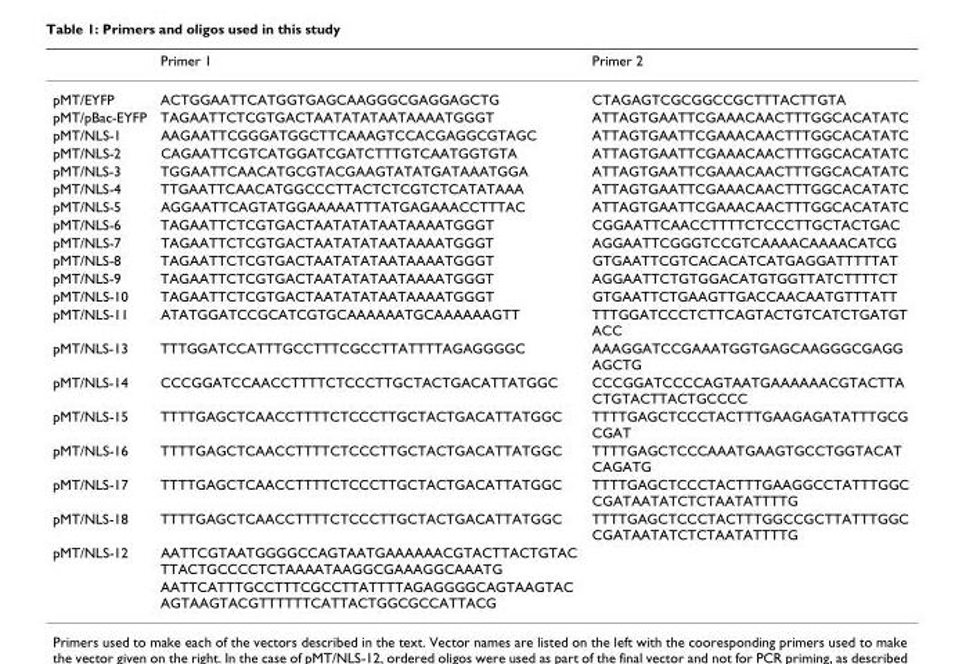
<table><thead><tr><td></td><td>Primer 1</td><td>Primer 2</td></tr></thead><tbody><tr><td>pMT/EYFP</td><td>ACTGGAATTCATGGTGAGCAAGGGCGAGGAGCTG</td><td>CTAGAGTCGCGGCCGCTTTACTTGTA</td></tr><tr><td>pMT/pBac-EYFP</td><td>TAGAATTCTCGTGACTAATATATAATAAAATGGGT</td><td>ATTAGTGAATTCGAAACAACTTTGGCACATATC</td></tr><tr><td>pMT/NLS-1</td><td>AAGAATTCGGGATGGCTTCAAAGTCCACGAGGCGTAGC</td><td>ATTAGTGAATTCGAAACAACTTTGGCACATATC</td></tr><tr><td>pMT/NLS-2</td><td>CAGAATTCGTCATGGATCGATCTTTGTCAATGGTGTA</td><td>ATTAGTGAATTCGAAACAACTTTGGCACATATC</td></tr><tr><td>pMT/NLS-3</td><td>TGGAATTCAACATGCGTACGAAGTATATGATAAATGGA</td><td>ATTAGTGAATTCGAAACAACTTTGGCACATATC</td></tr><tr><td>pMT/NLS-4</td><td>TTGAATTCAACATGGCCCTTACTCTCGTCTCATATAAA</td><td>ATTAGTGAATTCGAAACAACTTTGGCACATATC</td></tr><tr><td>pMT/NLS-5</td><td>AGGAATTCAGTATGGAAAAATTTATGAGAAACCTTTAC</td><td>ATTAGTGAATTCGAAACAACTTTGGCACATATC</td></tr><tr><td>pMT/NLS-6</td><td>TAGAATTCTCGTGACTAATATATAATAAAATGGGT</td><td>CGGAATTCAACCTTTTCTCCCTTGCTACTGAC</td></tr><tr><td>pMT/NLS-7</td><td>TAGAATTCTCGTGACTAATATATAATAAAATGGGT</td><td>AGGAATTCGGGTCCGTCAAAACAAAACATCG</td></tr><tr><td>pMT/NLS-8</td><td>TAGAATTCTCGTGACTAATATATAATAAAATGGGT</td><td>GTGAATTCGTCACACATCATGAGGATTTTTAT</td></tr><tr><td>pMT/NLS-9</td><td>TAGAATTCTCGTGACTAATATATAATAAAATGGGT</td><td>AGGAATTCTGTGGACATGTGGTTATCTTTTCT</td></tr><tr><td>pMT/NLS-10</td><td>TAGAATTCTCGTGACTAATATATAATAAAATGGGT</td><td>GTGAATTCTGAAGTTGACCAACAATGTTTATT</td></tr><tr><td>pMT/NLS-11</td><td>ATATGGATCCGCATCGTGCAAAAAATGCAAAAAAGTT</td><td>TTTGGATCCCTCTTCAGTACTGTCATCTGATGT ACC</td></tr><tr><td>pMT/NLS-13</td><td>TTTGGATCCATTTGCCTTTCGCCTTATTTTAGAGGGGC</td><td>AAAGGATCCGAAATGGTGAGCAAGGGCGAGG AGCTG</td></tr><tr><td>pMT/NLS-14</td><td>CCCGGATCCAACCTTTTCTCCCTTGCTACTGACATTATGGC</td><td>CCCGGATCCCCAGTAATGAAAAAACGTACTTA CTGTACTTACTGCCCC</td></tr><tr><td>pMT/NLS-15</td><td>TTTTGAGCTCAACCTTTTCTCCCTTGCTACTGACATTATGGC</td><td>TTTTGAGCTCCCTACTTTGAAGAGATATTTGCG CGAT</td></tr><tr><td>pMT/NLS-16</td><td>TTTTGAGCTCAACCTTTTCTCCCTTGCTACTGACATTATGGC</td><td>TTTTGAGCTCCCAAATGAAGTGCCTGGTACAT CAGATG</td></tr><tr><td>pMT/NLS-17</td><td>TTTTGAGCTCAACCTTTTCTCCCTTGCTACTGACATTATGGC</td><td>TTTTGAGCTCCCTACTTTGAAGGCCTATTTGGC CGATAATATCTCTAATATTTTG</td></tr><tr><td>pMT/NLS-18</td><td>TTTTGAGCTCAACCTTTTCTCCCTTGCTACTGACATTATGGC</td><td>TTTTGAGCTCCCTACTTTGGCCGCTTATTTGGC CGATAATATCTCTAATATTTTG</td></tr><tr><td rowspan="2">pMT/NLS-12</td><td>AATTCGTAATGGGGCCAGTAATGAAAAAACGTACTTACTGTAC TTACTGCCCCTCTAAAATAAGGCGAAAGGCAAATG</td><td></td></tr><tr><td>AATTCATTTGCCTTTCGCCTTATTTTAGAGGGGCAGTAAGTAC AGTAAGTACGTTTTTTCATTACTGGCGCCATTACG</td><td></td></tr></tbody></table>